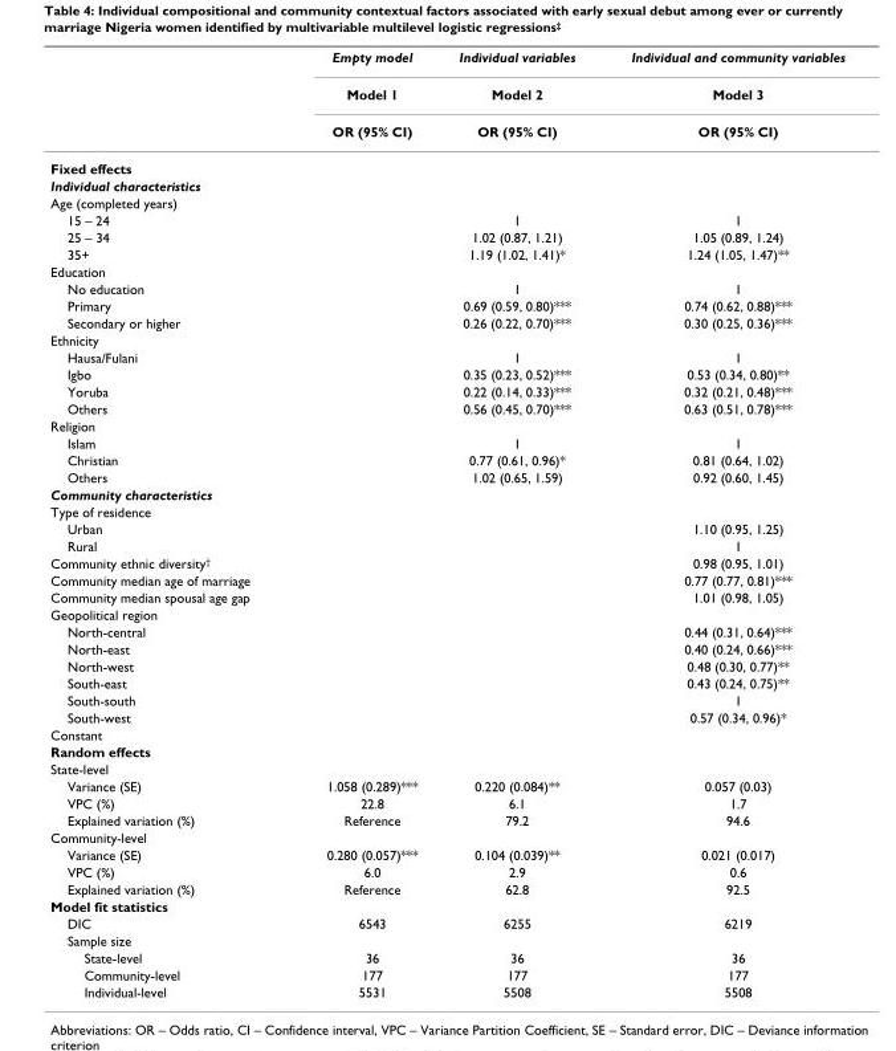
<table><thead><tr><td rowspan="3"></td><td rowspan="3">Empty model Model 1 OR (95% CI)</td><td rowspan="3">Individual variables Model 2 OR (95% CI)</td><td rowspan="3">Individual and community variables Model 3 OR (95% CI)</td></tr><tr></tr><tr></tr></thead><tbody><tr><td colspan="4">Fixed effects</td></tr><tr><td colspan="4">Individual characteristics</td></tr><tr><td colspan="4">Age (completed years)</td></tr><tr><td>15 – 24</td><td></td><td>1</td><td>1</td></tr><tr><td>25 – 34</td><td></td><td>1.02 (0.87, 1.21)</td><td>1.05 (0.89, 1.24)</td></tr><tr><td>35+</td><td></td><td>1.19 (1.02, 1.41)*</td><td>1.24 (1.05, 1.47)**</td></tr><tr><td colspan="4">Education</td></tr><tr><td>No education</td><td></td><td>1</td><td>1</td></tr><tr><td>Primary</td><td></td><td>0.69 (0.59, 0.80)***</td><td>0.74 (0.62, 0.88)***</td></tr><tr><td>Secondary or higher</td><td></td><td>0.26 (0.22, 0.70)***</td><td>0.30 (0.25, 0.36)***</td></tr><tr><td colspan="4">Ethnicity</td></tr><tr><td>Hausa/Fulani</td><td></td><td>1</td><td>1</td></tr><tr><td>Igbo</td><td></td><td>0.35 (0.23, 0.52)***</td><td>0.53 (0.34, 0.80)**</td></tr><tr><td>Yoruba</td><td></td><td>0.22 (0.14, 0.33)***</td><td>0.32 (0.21, 0.48)***</td></tr><tr><td>Others</td><td></td><td>0.56 (0.45, 0.70)***</td><td>0.63 (0.51, 0.78)***</td></tr><tr><td colspan="4">Religion</td></tr><tr><td>Islam</td><td></td><td>1</td><td>1</td></tr><tr><td>Christian</td><td></td><td>0.77 (0.61, 0.96)*</td><td>0.81 (0.64, 1.02)</td></tr><tr><td>Others</td><td></td><td>1.02 (0.65, 1.59)</td><td>0.92 (0.60, 1.45)</td></tr><tr><td colspan="4">Community characteristics</td></tr><tr><td colspan="4">Type of residence</td></tr><tr><td>Urban</td><td></td><td></td><td>1.10 (0.95, 1.25)</td></tr><tr><td>Rural</td><td></td><td></td><td>1</td></tr><tr><td>Community ethnic diversity<sup>†</sup></td><td></td><td></td><td>0.98 (0.95, 1.01)</td></tr><tr><td>Community median age of marriage</td><td></td><td></td><td>0.77 (0.77, 0.81)***</td></tr><tr><td>Community median spousal age gap</td><td></td><td></td><td>1.01 (0.98, 1.05)</td></tr><tr><td colspan="4">Geopolitical region</td></tr><tr><td>North-central</td><td></td><td></td><td>0.44 (0.31, 0.64)***</td></tr><tr><td>North-east</td><td></td><td></td><td>0.40 (0.24, 0.66)***</td></tr><tr><td>North-west</td><td></td><td></td><td>0.48 (0.30, 0.77)**</td></tr><tr><td>South-east</td><td></td><td></td><td>0.43 (0.24, 0.75)**</td></tr><tr><td>South-south</td><td></td><td></td><td>1</td></tr><tr><td>South-west</td><td></td><td></td><td>0.57 (0.34, 0.96)*</td></tr><tr><td colspan="4">Constant</td></tr><tr><td colspan="4">Random effects</td></tr><tr><td colspan="4">State-level</td></tr><tr><td>Variance (SE)</td><td>1.058 (0.289)***</td><td>0.220 (0.084)**</td><td>0.057 (0.03)</td></tr><tr><td>VPC (%)</td><td>22.8</td><td>6.1</td><td>1.7</td></tr><tr><td>Explained variation (%)</td><td>Reference</td><td>79.2</td><td>94.6</td></tr><tr><td colspan="4">Community-level</td></tr><tr><td>Variance (SE)</td><td>0.280 (0.057)***</td><td>0.104 (0.039)**</td><td>0.021 (0.017)</td></tr><tr><td>VPC (%)</td><td>6.0</td><td>2.9</td><td>0.6</td></tr><tr><td>Explained variation (%)</td><td>Reference</td><td>62.8</td><td>92.5</td></tr><tr><td colspan="4">Model fit statistics</td></tr><tr><td>DIC</td><td>6543</td><td>6255</td><td>6219</td></tr><tr><td colspan="4">Sample size</td></tr><tr><td>State-level</td><td>36</td><td>36</td><td>36</td></tr><tr><td>Community-level</td><td>177</td><td>177</td><td>177</td></tr><tr><td>Individual-level</td><td>5531</td><td>5508</td><td>5508</td></tr></tbody></table>